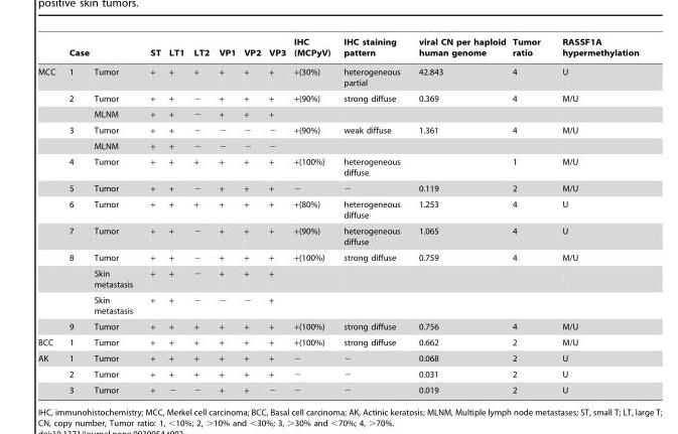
<table><thead><tr><td></td><td>Case</td><td></td><td>ST</td><td>LT1</td><td>LT2</td><td>VP1</td><td>VP2</td><td>VP3</td><td>IHC (MCPyV)</td><td>IHC staining pattern</td><td>viral CN per haploid human genome</td><td>Tumor ratio</td><td>RASSF1A hypermethylation</td></tr></thead><tbody><tr><td rowspan="13">MCC</td><td>1</td><td>Tumor</td><td>+</td><td>+</td><td>+</td><td>+</td><td>+</td><td>+</td><td>+(30%)</td><td>heterogeneous partial</td><td>42.843</td><td>4</td><td>U</td></tr><tr><td>2</td><td>Tumor</td><td>+</td><td>+</td><td>−</td><td>+</td><td>+</td><td>+</td><td>+(90%)</td><td>strong diffuse</td><td>0.369</td><td>4</td><td>M/U</td></tr><tr><td></td><td>MLNM</td><td>+</td><td>+</td><td>−</td><td>+</td><td>+</td><td>+</td><td></td><td></td><td></td><td></td><td></td></tr><tr><td>3</td><td>Tumor</td><td>+</td><td>+</td><td>−</td><td>−</td><td>−</td><td>−</td><td>+(90%)</td><td>weak diffuse</td><td>1.361</td><td>4</td><td>M/U</td></tr><tr><td></td><td>MLNM</td><td>+</td><td>+</td><td>−</td><td>−</td><td>−</td><td>−</td><td></td><td></td><td></td><td></td><td></td></tr><tr><td>4</td><td>Tumor</td><td>+</td><td>+</td><td>+</td><td>+</td><td>+</td><td>+</td><td>+(100%)</td><td>heterogeneous diffuse</td><td></td><td>1</td><td>M/U</td></tr><tr><td>5</td><td>Tumor</td><td>+</td><td>+</td><td>−</td><td>+</td><td>+</td><td>+</td><td>−</td><td>−</td><td>0.119</td><td>2</td><td>M/U</td></tr><tr><td>6</td><td>Tumor</td><td>+</td><td>+</td><td>+</td><td>+</td><td>+</td><td>+</td><td>+(80%)</td><td>heterogeneous diffuse</td><td>1.253</td><td>4</td><td>U</td></tr><tr><td>7</td><td>Tumor</td><td>+</td><td>+</td><td>−</td><td>+</td><td>+</td><td>+</td><td>+(90%)</td><td>heterogeneous diffuse</td><td>1.065</td><td>4</td><td>U</td></tr><tr><td>8</td><td>Tumor</td><td>+</td><td>+</td><td>−</td><td>+</td><td>+</td><td>+</td><td>+(100%)</td><td>strong diffuse</td><td>0.759</td><td>4</td><td>M/U</td></tr><tr><td></td><td>Skin metastasis</td><td>+</td><td>+</td><td>−</td><td>+</td><td>+</td><td>+</td><td></td><td></td><td></td><td></td><td></td></tr><tr><td></td><td>Skin metastasis</td><td>+</td><td>+</td><td>−</td><td>−</td><td>−</td><td>+</td><td></td><td></td><td></td><td></td><td></td></tr><tr><td>9</td><td>Tumor</td><td>+</td><td>+</td><td>+</td><td>+</td><td>+</td><td>+</td><td>+(100%)</td><td>strong diffuse</td><td>0.756</td><td>4</td><td>M/U</td></tr><tr><td>BCC</td><td>1</td><td>Tumor</td><td>+</td><td>+</td><td>+</td><td>+</td><td>+</td><td>+</td><td>+(100%)</td><td>strong diffuse</td><td>0.662</td><td>2</td><td>M/U</td></tr><tr><td rowspan="3">AK</td><td>1</td><td>Tumor</td><td>+</td><td>+</td><td>+</td><td>+</td><td>+</td><td>+</td><td>−</td><td>−</td><td>0.068</td><td>2</td><td>U</td></tr><tr><td>2</td><td>Tumor</td><td>+</td><td>+</td><td>+</td><td>+</td><td>+</td><td>+</td><td>−</td><td>−</td><td>0.031</td><td>2</td><td>U</td></tr><tr><td>3</td><td>Tumor</td><td>+</td><td>−</td><td>−</td><td>+</td><td>+</td><td>−</td><td>−</td><td>−</td><td>0.019</td><td>2</td><td>U</td></tr></tbody></table>